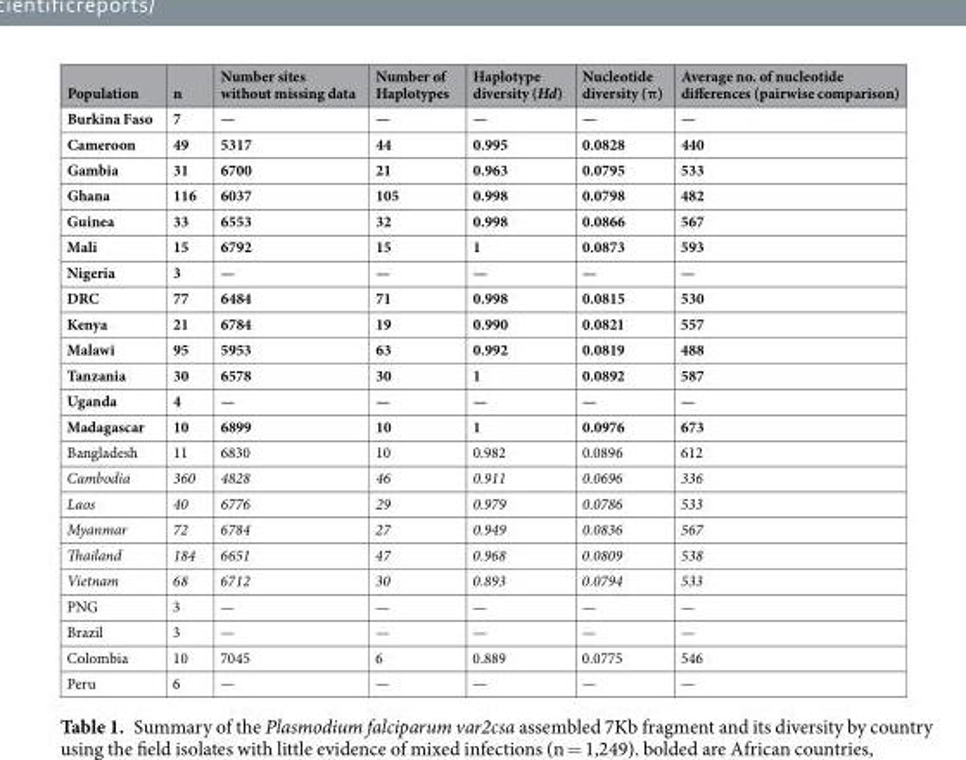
<table><thead><tr><td>Population</td><td>n</td><td>Number sites without missing data</td><td>Number of Haplotypes</td><td>Haplotype diversity (Hd)</td><td>Nucleotide diversity (π)</td><td>Average no. of nucleotide differences (pairwise comparison)</td></tr></thead><tbody><tr><td>Burkina Faso</td><td>7</td><td>—</td><td>—</td><td>—</td><td>—</td><td>—</td></tr><tr><td>Cameroon</td><td>49</td><td>5317</td><td>44</td><td>0.995</td><td>0.0828</td><td>440</td></tr><tr><td>Gambia</td><td>31</td><td>6700</td><td>21</td><td>0.963</td><td>0.0795</td><td>533</td></tr><tr><td>Ghana</td><td>116</td><td>6037</td><td>105</td><td>0.998</td><td>0.0798</td><td>482</td></tr><tr><td>Guinea</td><td>33</td><td>6553</td><td>32</td><td>0.998</td><td>0.0866</td><td>567</td></tr><tr><td>Mali</td><td>15</td><td>6792</td><td>15</td><td>1</td><td>0.0873</td><td>593</td></tr><tr><td>Nigeria</td><td>3</td><td>—</td><td>—</td><td>—</td><td>—</td><td>—</td></tr><tr><td>DRC</td><td>77</td><td>6484</td><td>71</td><td>0.998</td><td>0.0815</td><td>530</td></tr><tr><td>Kenya</td><td>21</td><td>6784</td><td>19</td><td>0.990</td><td>0.0821</td><td>557</td></tr><tr><td>Malawi</td><td>95</td><td>5953</td><td>63</td><td>0.992</td><td>0.0819</td><td>488</td></tr><tr><td>Tanzania</td><td>30</td><td>6578</td><td>30</td><td>1</td><td>0.0892</td><td>587</td></tr><tr><td>Uganda</td><td>4</td><td>—</td><td>—</td><td>—</td><td>—</td><td>—</td></tr><tr><td>Madagascar</td><td>10</td><td>6899</td><td>10</td><td>1</td><td>0.0976</td><td>673</td></tr><tr><td>Bangladesh</td><td>11</td><td>6830</td><td>10</td><td>0.982</td><td>0.0896</td><td>612</td></tr><tr><td>Cambodia</td><td>360</td><td>4828</td><td>46</td><td>0.911</td><td>0.0696</td><td>336</td></tr><tr><td>Laos</td><td>40</td><td>6776</td><td>29</td><td>0.979</td><td>0.0786</td><td>533</td></tr><tr><td>Myanmar</td><td>72</td><td>6784</td><td>27</td><td>0.949</td><td>0.0836</td><td>567</td></tr><tr><td>Thailand</td><td>184</td><td>6651</td><td>47</td><td>0.968</td><td>0.0809</td><td>538</td></tr><tr><td>Vietnam</td><td>68</td><td>6712</td><td>30</td><td>0.893</td><td>0.0794</td><td>533</td></tr><tr><td>PNG</td><td>3</td><td>—</td><td>—</td><td>—</td><td>—</td><td>—</td></tr><tr><td>Brazil</td><td>3</td><td>—</td><td>—</td><td>—</td><td>—</td><td>—</td></tr><tr><td>Colombia</td><td>10</td><td>7045</td><td>6</td><td>0.889</td><td>0.0775</td><td>546</td></tr><tr><td>Peru</td><td>6</td><td>—</td><td>—</td><td>—</td><td>—</td><td>—</td></tr></tbody></table>